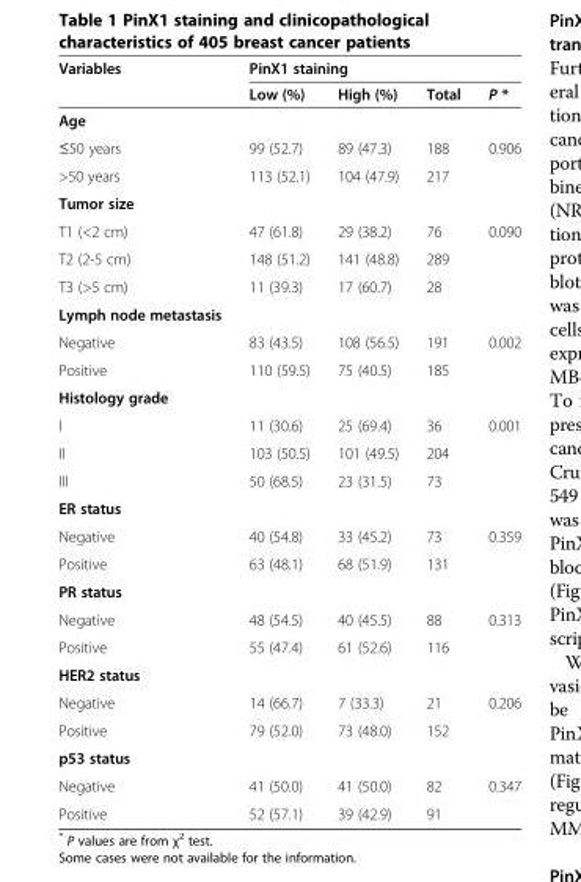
<table><thead><tr><td rowspan="2">Variables</td><td colspan="4">PinX1 staining</td></tr><tr><td>Low (%)</td><td>High (%)</td><td>Total</td><td>P *</td></tr></thead><tbody><tr><td colspan="5">Age</td></tr><tr><td>≤50 years</td><td>99 (52.7)</td><td>89 (47.3)</td><td>188</td><td>0.906</td></tr><tr><td>&gt;50 years</td><td>113 (52.1)</td><td>104 (47.9)</td><td>217</td><td></td></tr><tr><td colspan="5">Tumor size</td></tr><tr><td>T1 (&lt;2 cm)</td><td>47 (61.8)</td><td>29 (38.2)</td><td>76</td><td>0.090</td></tr><tr><td>T2 (2-5 cm)</td><td>148 (51.2)</td><td>141 (48.8)</td><td>289</td><td></td></tr><tr><td>T3 (&gt;5 cm)</td><td>11 (39.3)</td><td>17 (60.7)</td><td>28</td><td></td></tr><tr><td colspan="5">Lymph node metastasis</td></tr><tr><td>Negative</td><td>83 (43.5)</td><td>108 (56.5)</td><td>191</td><td>0.002</td></tr><tr><td>Positive</td><td>110 (59.5)</td><td>75 (40.5)</td><td>185</td><td></td></tr><tr><td colspan="5">Histology grade</td></tr><tr><td>I</td><td>11 (30.6)</td><td>25 (69.4)</td><td>36</td><td>0.001</td></tr><tr><td>II</td><td>103 (50.5)</td><td>101 (49.5)</td><td>204</td><td></td></tr><tr><td>III</td><td>50 (68.5)</td><td>23 (31.5)</td><td>73</td><td></td></tr><tr><td colspan="5">ER status</td></tr><tr><td>Negative</td><td>40 (54.8)</td><td>33 (45.2)</td><td>73</td><td>0.359</td></tr><tr><td>Positive</td><td>63 (48.1)</td><td>68 (51.9)</td><td>131</td><td></td></tr><tr><td colspan="5">PR status</td></tr><tr><td>Negative</td><td>48 (54.5)</td><td>40 (45.5)</td><td>88</td><td>0.313</td></tr><tr><td>Positive</td><td>55 (47.4)</td><td>61 (52.6)</td><td>116</td><td></td></tr><tr><td colspan="5">HER2 status</td></tr><tr><td>Negative</td><td>14 (66.7)</td><td>7 (33.3)</td><td>21</td><td>0.206</td></tr><tr><td>Positive</td><td>79 (52.0)</td><td>73 (48.0)</td><td>152</td><td></td></tr><tr><td colspan="5">p53 status</td></tr><tr><td>Negative</td><td>41 (50.0)</td><td>41 (50.0)</td><td>82</td><td>0.347</td></tr><tr><td>Positive</td><td>52 (57.1)</td><td>39 (42.9)</td><td>91</td><td></td></tr></tbody></table>